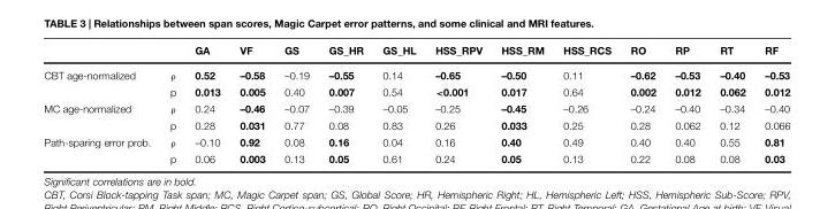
<table><thead><tr><td></td><td></td><td>GA</td><td>VF</td><td>GS</td><td>GS_HR</td><td>GS_HL</td><td>HSS_RPV</td><td>HSS_RM</td><td>HSS_RCS</td><td>RO</td><td>RP</td><td>RT</td><td>RF</td></tr></thead><tbody><tr><td rowspan="2">CBT age-normalized</td><td>ρ</td><td>0.52</td><td>–0.58</td><td>–0.19</td><td>–0.55</td><td>0.14</td><td>–0.65</td><td>–0.50</td><td>0.11</td><td>–0.62</td><td>–0.53</td><td>–0.40</td><td>–0.53</td></tr><tr><td>p</td><td>0.013</td><td>0.005</td><td>0.40</td><td>0.007</td><td>0.54</td><td>&lt;0.001</td><td>0.017</td><td>0.64</td><td>0.002</td><td>0.012</td><td>0.062</td><td>0.012</td></tr><tr><td rowspan="2">MC age-normalized</td><td>ρ</td><td>0.24</td><td>–0.46</td><td>–0.07</td><td>–0.39</td><td>–0.05</td><td>–0.25</td><td>–0.45</td><td>–0.26</td><td>–0.24</td><td>–0.40</td><td>–0.34</td><td>–0.40</td></tr><tr><td>p</td><td>0.28</td><td>0.031</td><td>0.77</td><td>0.08</td><td>0.83</td><td>0.26</td><td>0.033</td><td>0.25</td><td>0.28</td><td>0.062</td><td>0.12</td><td>0.066</td></tr><tr><td rowspan="2">Path-sparing error prob.</td><td>ρ</td><td>–0.10</td><td>0.92</td><td>0.08</td><td>0.16</td><td>0.04</td><td>0.16</td><td>0.40</td><td>0.49</td><td>0.40</td><td>0.40</td><td>0.55</td><td>0.81</td></tr><tr><td>p</td><td>0.06</td><td>0.003</td><td>0.13</td><td>0.05</td><td>0.61</td><td>0.24</td><td>0.05</td><td>0.13</td><td>0.22</td><td>0.08</td><td>0.08</td><td>0.03</td></tr></tbody></table>